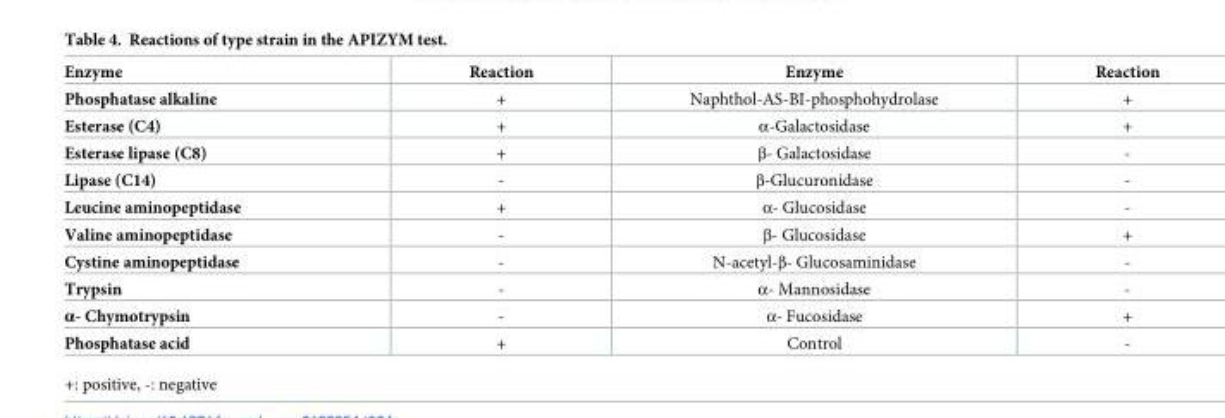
<table><thead><tr><td>Enzyme</td><td>Reaction</td><td>Enzyme</td><td>Reaction</td></tr></thead><tbody><tr><td>Phosphatase alkaline</td><td>+</td><td>Naphthol-AS-BI-phosphohydrolase</td><td>+</td></tr><tr><td>Esterase (C4)</td><td>+</td><td>α-Galactosidase</td><td>+</td></tr><tr><td>Esterase lipase (C8)</td><td>+</td><td>β- Galactosidase</td><td>-</td></tr><tr><td>Lipase (C14)</td><td>-</td><td>β-Glucuronidase</td><td>-</td></tr><tr><td>Leucine aminopeptidase</td><td>+</td><td>α- Glucosidase</td><td>-</td></tr><tr><td>Valine aminopeptidase</td><td>-</td><td>β- Glucosidase</td><td>+</td></tr><tr><td>Cystine aminopeptidase</td><td>-</td><td>N-acetyl-β- Glucosaminidase</td><td>-</td></tr><tr><td>Trypsin</td><td>-</td><td>α- Mannosidase</td><td>-</td></tr><tr><td>α- Chymotrypsin</td><td>-</td><td>α- Fucosidase</td><td>+</td></tr><tr><td>Phosphatase acid</td><td>+</td><td>Control</td><td>-</td></tr></tbody></table>